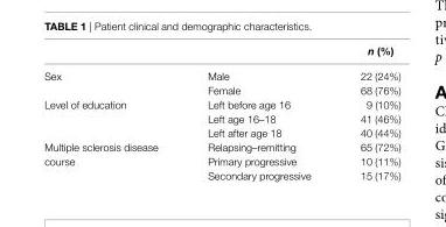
<table><thead><tr><td></td><td></td><td>n (%)</td></tr></thead><tbody><tr><td rowspan="2">Sex</td><td>Male</td><td>22 (24%)</td></tr><tr><td>Female</td><td>68 (76%)</td></tr><tr><td rowspan="3">Level of education</td><td>Left before age 16</td><td>9 (10%)</td></tr><tr><td>Left age 16–18</td><td>41 (46%)</td></tr><tr><td>Left after age 18</td><td>40 (44%)</td></tr><tr><td rowspan="3">Multiple sclerosis disease course</td><td>Relapsing–remitting</td><td>65 (72%)</td></tr><tr><td>Primary progressive</td><td>10 (11%)</td></tr><tr><td>Secondary progressive</td><td>15 (17%)</td></tr></tbody></table>